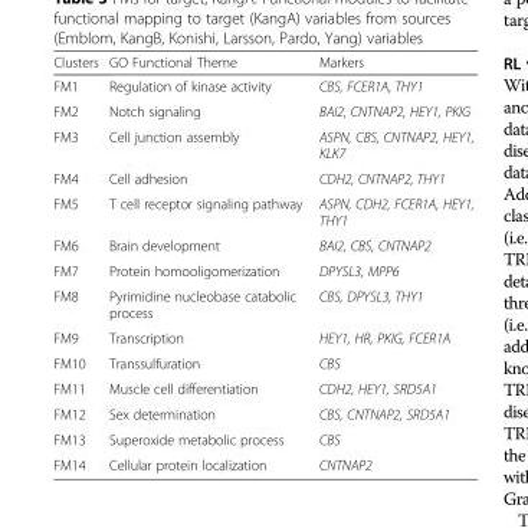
<table><thead><tr><td>Clusters</td><td>GO Functional Theme</td><td>Markers</td></tr></thead><tbody><tr><td>FM1</td><td>Regulation of kinase activity</td><td>CBS, FCER1A, THY1</td></tr><tr><td>FM2</td><td>Notch signaling</td><td>BAI2, CNTNAP2, HEY1, PKIG</td></tr><tr><td>FM3</td><td>Cell junction assembly</td><td>ASPN, CBS, CNTNAP2, HEY1, KLK7</td></tr><tr><td>FM4</td><td>Cell adhesion</td><td>CDH2, CNTNAP2, THY1</td></tr><tr><td>FM5</td><td>T cell receptor signaling pathway</td><td>ASPN, CDH2, FCER1A, HEY1, THY1</td></tr><tr><td>FM6</td><td>Brain development</td><td>BAI2, CBS, CNTNAP2</td></tr><tr><td>FM7</td><td>Protein homooligomerization</td><td>DPYSL3, MPP6</td></tr><tr><td>FM8</td><td>Pyrimidine nucleobase catabolic process</td><td>CBS, DPYSL3, THY1</td></tr><tr><td>FM9</td><td>Transcription</td><td>HEY1, HR, PKIG, FCER1A</td></tr><tr><td>FM10</td><td>Transsulfuration</td><td>CBS</td></tr><tr><td>FM11</td><td>Muscle cell differentiation</td><td>CDH2, HEY1, SRD5A1</td></tr><tr><td>FM12</td><td>Sex determination</td><td>CBS, CNTNAP2, SRD5A1</td></tr><tr><td>FM13</td><td>Superoxide metabolic process</td><td>CBS</td></tr><tr><td>FM14</td><td>Cellular protein localization</td><td>CNTNAP2</td></tr></tbody></table>